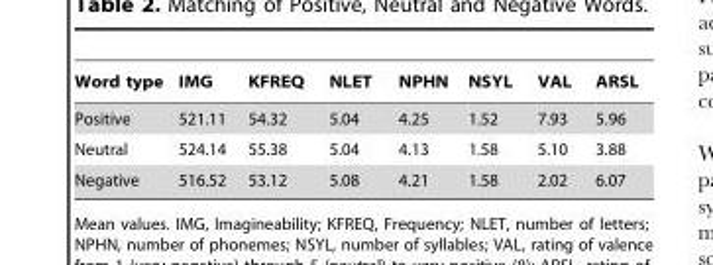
<table><thead><tr><td>Word type</td><td>IMG</td><td>KFREQ</td><td>NLET</td><td>NPHN</td><td>NSYL</td><td>VAL</td><td>ARSL</td></tr></thead><tbody><tr><td>Positive</td><td>521.11</td><td>54.32</td><td>5.04</td><td>4.25</td><td>1.52</td><td>7.93</td><td>5.96</td></tr><tr><td>Neutral</td><td>524.14</td><td>55.38</td><td>5.04</td><td>4.13</td><td>1.58</td><td>5.10</td><td>3.88</td></tr><tr><td>Negative</td><td>516.52</td><td>53.12</td><td>5.08</td><td>4.21</td><td>1.58</td><td>2.02</td><td>6.07</td></tr></tbody></table>